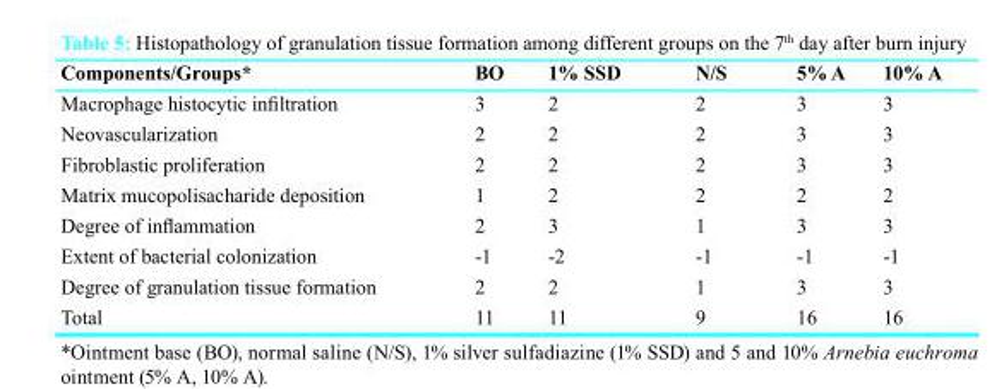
<table><thead><tr><td>Components/Groups*</td><td>BO</td><td>1% SSD</td><td>N/S</td><td>5% A</td><td>10% A</td></tr></thead><tbody><tr><td>Macrophage histocytic infiltration</td><td>3</td><td>2</td><td>2</td><td>3</td><td>3</td></tr><tr><td>Neovascularization</td><td>2</td><td>2</td><td>2</td><td>3</td><td>3</td></tr><tr><td>Fibroblastic proliferation</td><td>2</td><td>2</td><td>2</td><td>3</td><td>3</td></tr><tr><td>Matrix mucopolisacharide deposition</td><td>1</td><td>2</td><td>2</td><td>2</td><td>2</td></tr><tr><td>Degree of inflammation</td><td>2</td><td>3</td><td>1</td><td>3</td><td>3</td></tr><tr><td>Extent of bacterial colonization</td><td>-1</td><td>-2</td><td>-1</td><td>-1</td><td>-1</td></tr><tr><td>Degree of granulation tissue formation</td><td>2</td><td>2</td><td>1</td><td>3</td><td>3</td></tr><tr><td>Total</td><td>11</td><td>11</td><td>9</td><td>16</td><td>16</td></tr></tbody></table>